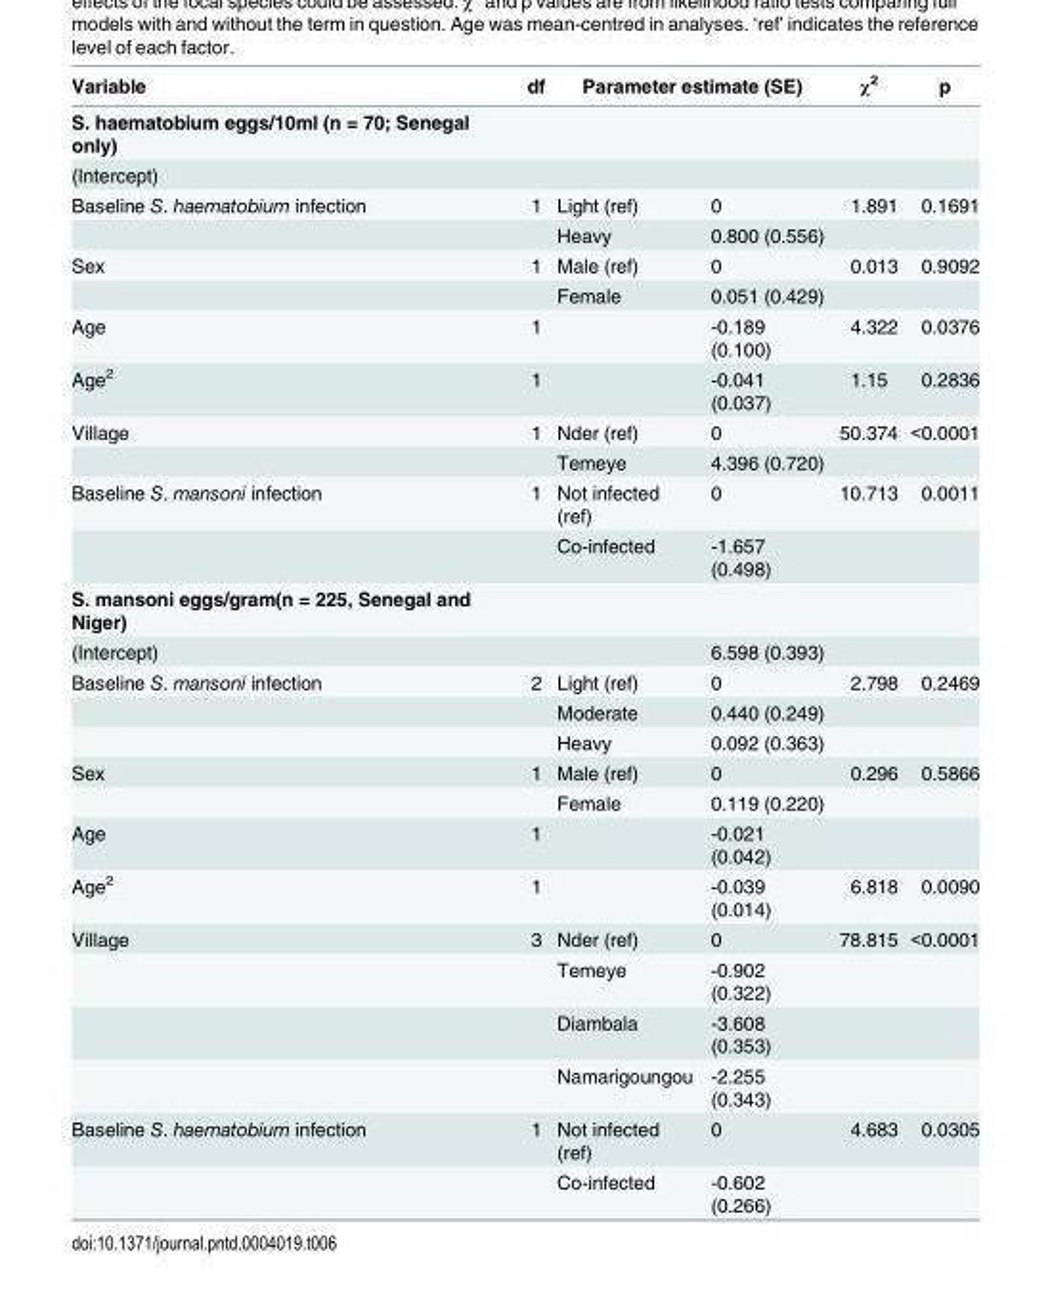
<table><thead><tr><td rowspan="2">Variable S. haematobium eggs/10ml (n = 70; Senegal only)</td><td rowspan="2">df</td><td colspan="2">Parameter estimate (SE)</td><td rowspan="2">χ<sup>2</sup></td><td rowspan="2">p</td></tr><tr><td></td><td></td></tr></thead><tbody><tr><td colspan="6">(Intercept)</td></tr><tr><td rowspan="2">Baseline S. haematobium infection</td><td>1</td><td>Light (ref)</td><td>0</td><td>1.891</td><td>0.1691</td></tr><tr><td></td><td>Heavy</td><td>0.800 (0.556)</td><td></td><td></td></tr><tr><td rowspan="2">Sex</td><td>1</td><td>Male (ref)</td><td>0</td><td>0.013</td><td>0.9092</td></tr><tr><td></td><td>Female</td><td>0.051 (0.429)</td><td></td><td></td></tr><tr><td>Age</td><td>1</td><td></td><td>-0.189 (0.100)</td><td>4.322</td><td>0.0376</td></tr><tr><td>Age<sup>2</sup></td><td>1</td><td></td><td>-0.041 (0.037)</td><td>1.15</td><td>0.2836</td></tr><tr><td rowspan="2">Village</td><td>1</td><td>Nder (ref)</td><td>0</td><td>50.374</td><td>&lt;0.0001</td></tr><tr><td></td><td>Temeye</td><td>4.396 (0.720)</td><td></td><td></td></tr><tr><td rowspan="2">Baseline S. mansoni infection</td><td>1</td><td>Not infected (ref)</td><td>0</td><td>10.713</td><td>0.0011</td></tr><tr><td></td><td>Co-infected</td><td>-1.657 (0.498)</td><td></td><td></td></tr><tr><td colspan="6">S. mansoni eggs/gram(n = 225, Senegal and Niger)</td></tr><tr><td>(Intercept)</td><td></td><td></td><td>6.598 (0.393)</td><td></td><td></td></tr><tr><td rowspan="3">Baseline S. mansoni infection</td><td>2</td><td>Light (ref)</td><td>0</td><td>2.798</td><td>0.2469</td></tr><tr><td></td><td>Moderate</td><td>0.440 (0.249)</td><td></td><td></td></tr><tr><td></td><td>Heavy</td><td>0.092 (0.363)</td><td></td><td></td></tr><tr><td rowspan="2">Sex</td><td>1</td><td>Male (ref)</td><td>0</td><td>0.296</td><td>0.5866</td></tr><tr><td></td><td>Female</td><td>0.119 (0.220)</td><td></td><td></td></tr><tr><td>Age</td><td>1</td><td></td><td>-0.021 (0.042)</td><td></td><td></td></tr><tr><td>Age<sup>2</sup></td><td>1</td><td></td><td>-0.039 (0.014)</td><td>6.818</td><td>0.0090</td></tr><tr><td rowspan="4">Village</td><td>3</td><td>Nder (ref)</td><td>0</td><td>78.815</td><td>&lt;0.0001</td></tr><tr><td></td><td>Temeye</td><td>-0.902 (0.322)</td><td></td><td></td></tr><tr><td></td><td>Diambala</td><td>-3.608 (0.353)</td><td></td><td></td></tr><tr><td></td><td>Namarigoungou</td><td>-2.255 (0.343)</td><td></td><td></td></tr><tr><td rowspan="2">Baseline S. haematobium infection</td><td>1</td><td>Not infected (ref)</td><td>0</td><td>4.683</td><td>0.0305</td></tr><tr><td></td><td>Co-infected</td><td>-0.602 (0.266)</td><td></td><td></td></tr></tbody></table>